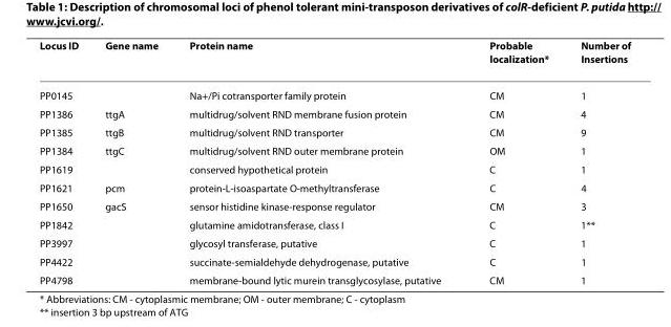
<table><thead><tr><td>Locus ID</td><td>Gene name</td><td>Protein name</td><td>Probable localization*</td><td>Number of Insertions</td></tr></thead><tbody><tr><td>PP0145</td><td></td><td>Na+/Pi cotransporter family protein</td><td>CM</td><td>1</td></tr><tr><td>PP1386</td><td>ttgA</td><td>multidrug/solvent RND membrane fusion protein</td><td>CM</td><td>4</td></tr><tr><td>PP1385</td><td>ttgB</td><td>multidrug/solvent RND transporter</td><td>CM</td><td>9</td></tr><tr><td>PP1384</td><td>ttgC</td><td>multidrug/solvent RND outer membrane protein</td><td>OM</td><td>1</td></tr><tr><td>PP1619</td><td></td><td>conserved hypothetical protein</td><td>C</td><td>1</td></tr><tr><td>PP1621</td><td>pcm</td><td>protein-L-isoaspartate O-methyltransferase</td><td>C</td><td>4</td></tr><tr><td>PP1650</td><td>gacS</td><td>sensor histidine kinase-response regulator</td><td>CM</td><td>3</td></tr><tr><td>PP1842</td><td></td><td>glutamine amidotransferase, class I</td><td>C</td><td>1**</td></tr><tr><td>PP3997</td><td></td><td>glycosyl transferase, putative</td><td>C</td><td>1</td></tr><tr><td>PP4422</td><td></td><td>succinate-semialdehyde dehydrogenase, putative</td><td>C</td><td>1</td></tr><tr><td>PP4798</td><td></td><td>membrane-bound lytic murein transglycosylase, putative</td><td>CM</td><td>1</td></tr></tbody></table>